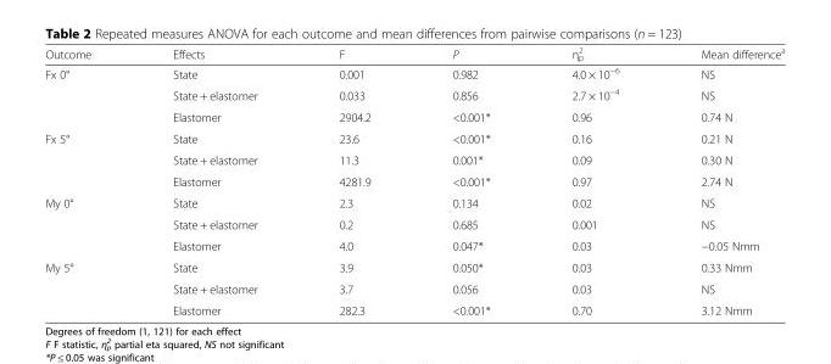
<table><thead><tr><td>Outcome</td><td>Effects</td><td>F</td><td>P</td><td>η<sub>p</sub> <sup>2</sup></td><td>Mean difference<sup>a</sup></td></tr></thead><tbody><tr><td rowspan="3">Fx 0°</td><td>State</td><td>0.001</td><td>0.982</td><td>4.0 × 10<sup>−6</sup></td><td>NS</td></tr><tr><td>State + elastomer</td><td>0.033</td><td>0.856</td><td>2.7 × 10<sup>−4</sup></td><td>NS</td></tr><tr><td>Elastomer</td><td>2904.2</td><td>&lt;0.001*</td><td>0.96</td><td>0.74 N</td></tr><tr><td rowspan="3">Fx 5°</td><td>State</td><td>23.6</td><td>&lt;0.001*</td><td>0.16</td><td>0.21 N</td></tr><tr><td>State + elastomer</td><td>11.3</td><td>0.001*</td><td>0.09</td><td>0.30 N</td></tr><tr><td>Elastomer</td><td>4281.9</td><td>&lt;0.001*</td><td>0.97</td><td>2.74 N</td></tr><tr><td rowspan="3">My 0°</td><td>State</td><td>2.3</td><td>0.134</td><td>0.02</td><td>NS</td></tr><tr><td>State + elastomer</td><td>0.2</td><td>0.685</td><td>0.001</td><td>NS</td></tr><tr><td>Elastomer</td><td>4.0</td><td>0.047*</td><td>0.03</td><td>−0.05 Nmm</td></tr><tr><td rowspan="3">My 5°</td><td>State</td><td>3.9</td><td>0.050*</td><td>0.03</td><td>0.33 Nmm</td></tr><tr><td>State + elastomer</td><td>3.7</td><td>0.056</td><td>0.03</td><td>NS</td></tr><tr><td>Elastomer</td><td>282.3</td><td>&lt;0.001*</td><td>0.70</td><td>3.12 Nmm</td></tr></tbody></table>